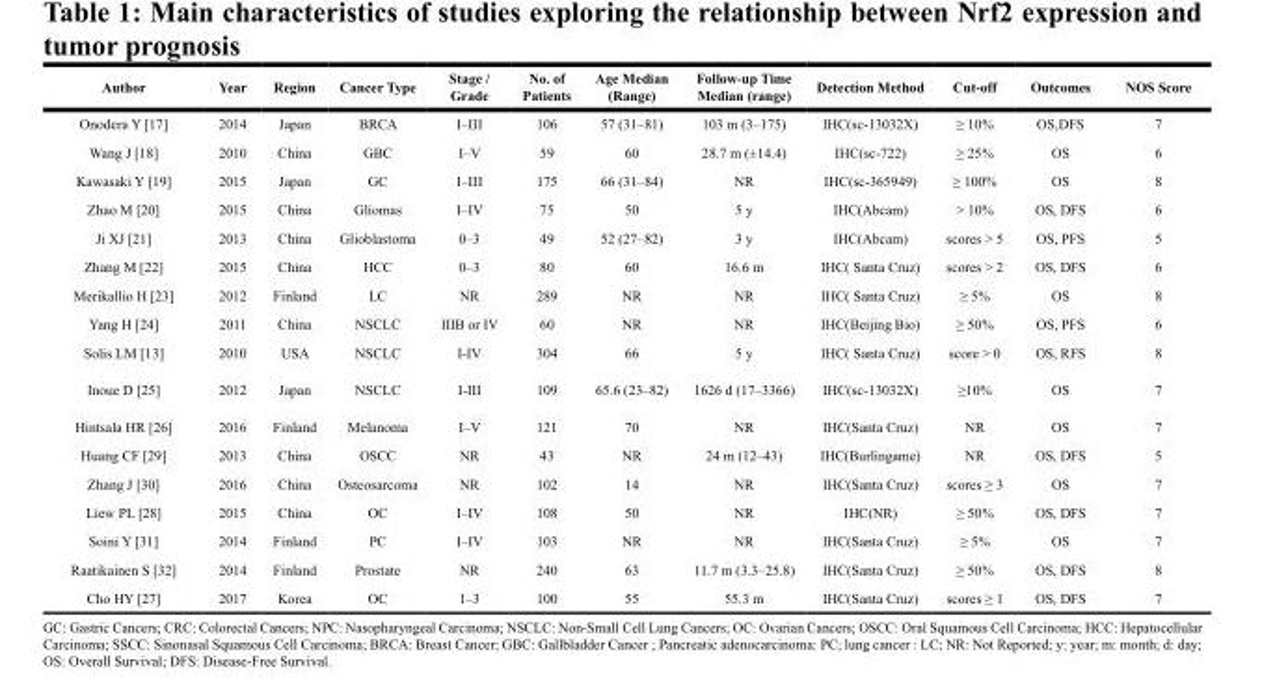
<table><thead><tr><td>Author</td><td>Year</td><td>Region</td><td>Cancer Type</td><td>Stage / Grade</td><td>No. of Patients</td><td>Age Median (Range)</td><td>Follow-up Time Median (range)</td><td>Detection Method</td><td>Cut-off</td><td>Outcomes</td><td>NOS Score</td></tr></thead><tbody><tr><td>Onodera Y [17]</td><td>2014</td><td>Japan</td><td>BRCA</td><td>I–III</td><td>106</td><td>57 (31–81)</td><td>103 m (3–175)</td><td>IHC(sc-13032X)</td><td>≥ 10%</td><td>OS,DFS</td><td>7</td></tr><tr><td>Wang J [18]</td><td>2010</td><td>China</td><td>GBC</td><td>I–V</td><td>59</td><td>60</td><td>28.7 m (±14.4)</td><td>IHC(sc-722)</td><td>≥ 25%</td><td>OS</td><td>6</td></tr><tr><td>Kawasaki Y [19]</td><td>2015</td><td>Japan</td><td>GC</td><td>I–III</td><td>175</td><td>66 (31–84)</td><td>NR</td><td>IHC(sc-365949)</td><td>≥ 100%</td><td>OS</td><td>8</td></tr><tr><td>Zhao M [20]</td><td>2015</td><td>China</td><td>Gliomas</td><td>I–IV</td><td>75</td><td>50</td><td>5 y</td><td>IHC(Abcam)</td><td>&gt; 10%</td><td>OS, DFS</td><td>6</td></tr><tr><td>Ji XJ [21]</td><td>2013</td><td>China</td><td>Glioblastoma</td><td>0–3</td><td>49</td><td>52 (27–82)</td><td>3 y</td><td>IHC(Abcam)</td><td>scores &gt; 5</td><td>OS, PFS</td><td>5</td></tr><tr><td>Zhang M [22]</td><td>2015</td><td>China</td><td>HCC</td><td>0–3</td><td>80</td><td>60</td><td>16.6 m</td><td>IHC( Santa Cruz)</td><td>scores &gt; 2</td><td>OS, DFS</td><td>6</td></tr><tr><td>Merikallio H [23]</td><td>2012</td><td>Finland</td><td>LC</td><td>NR</td><td>289</td><td>NR</td><td>NR</td><td>IHC( Santa Cruz)</td><td>≥ 5%</td><td>OS</td><td>8</td></tr><tr><td>Yang H [24]</td><td>2011</td><td>China</td><td>NSCLC</td><td>IIIB or IV</td><td>60</td><td>NR</td><td>NR</td><td>IHC(Beijing Bio)</td><td>≥ 50%</td><td>OS, PFS</td><td>6</td></tr><tr><td>Solis LM [13]</td><td>2010</td><td>USA</td><td>NSCLC</td><td>I-IV</td><td>304</td><td>66</td><td>5 y</td><td>IHC( Santa Cruz)</td><td>score &gt; 0</td><td>OS, RFS</td><td>8</td></tr><tr><td>Inoue D [25]</td><td>2012</td><td>Japan</td><td>NSCLC</td><td>I-III</td><td>109</td><td>65.6 (23–82)</td><td>1626 d (17–3366)</td><td>IHC(sc-13032X)</td><td>≥10%</td><td>OS</td><td>7</td></tr><tr><td>Hintsala HR [26]</td><td>2016</td><td>Finland</td><td>Melanoma</td><td>I–V</td><td>121</td><td>70</td><td>NR</td><td>IHC(Santa Cruz)</td><td>NR</td><td>OS</td><td>7</td></tr><tr><td>Huang CF [29]</td><td>2013</td><td>China</td><td>OSCC</td><td>NR</td><td>43</td><td>NR</td><td>24 m (12–43)</td><td>IHC(Burlingame)</td><td>NR</td><td>OS, DFS</td><td>5</td></tr><tr><td>Zhang J [30]</td><td>2016</td><td>China</td><td>Osteosarcoma</td><td>NR</td><td>102</td><td>14</td><td>NR</td><td>IHC(Santa Cruz)</td><td>scores ≥ 3</td><td>OS</td><td>7</td></tr><tr><td>Liew PL [28]</td><td>2015</td><td>China</td><td>OC</td><td>I–IV</td><td>108</td><td>50</td><td>NR</td><td>IHC(NR)</td><td>≥ 50%</td><td>OS, DFS</td><td>7</td></tr><tr><td>Soini Y [31]</td><td>2014</td><td>Finland</td><td>PC</td><td>I–IV</td><td>103</td><td>NR</td><td>NR</td><td>IHC(Santa Cruz)</td><td>≥ 5%</td><td>OS</td><td>7</td></tr><tr><td>Raatikainen S [32]</td><td>2014</td><td>Finland</td><td>Prostate</td><td>NR</td><td>240</td><td>63</td><td>11.7 m (3.3–25.8)</td><td>IHC(Santa Cruz)</td><td>≥ 50%</td><td>OS, DFS</td><td>8</td></tr><tr><td>Cho HY [27]</td><td>2017</td><td>Korea</td><td>OC</td><td>1–3</td><td>100</td><td>55</td><td>55.3 m</td><td>IHC(Santa Cruz)</td><td>scores ≥ 1</td><td>OS, DFS</td><td>7</td></tr></tbody></table>